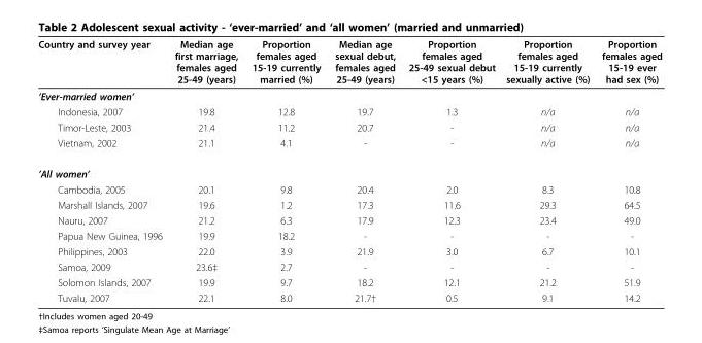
<table><thead><tr><td>Country and survey year</td><td>Median age first marriage, females aged 25-49 (years)</td><td>Proportion females aged 15-19 currently married (%)</td><td>Median age sexual debut, females aged 25-49 (years)</td><td>Proportion females aged 25-49 sexual debut &lt;15 years (%)</td><td>Proportion females aged 15-19 currently sexually active (%)</td><td>Proportion females aged 15-19 ever had sex (%)</td></tr></thead><tbody><tr><td colspan="7">’Ever-married women’</td></tr><tr><td>Indonesia, 2007</td><td>19.8</td><td>12.8</td><td>19.7</td><td>1.3</td><td>n/a</td><td>n/a</td></tr><tr><td>Timor-Leste, 2003</td><td>21.4</td><td>11.2</td><td>20.7</td><td>-</td><td>n/a</td><td>n/a</td></tr><tr><td>Vietnam, 2002</td><td>21.1</td><td>4.1</td><td>-</td><td>-</td><td>n/a</td><td>n/a</td></tr><tr><td colspan="7">’All women’</td></tr><tr><td>Cambodia, 2005</td><td>20.1</td><td>9.8</td><td>20.4</td><td>2.0</td><td>8.3</td><td>10.8</td></tr><tr><td>Marshall Islands, 2007</td><td>19.6</td><td>1.2</td><td>17.3</td><td>11.6</td><td>29.3</td><td>64.5</td></tr><tr><td>Nauru, 2007</td><td>21.2</td><td>6.3</td><td>17.9</td><td>12.3</td><td>23.4</td><td>49.0</td></tr><tr><td>Papua New Guinea, 1996</td><td>19.9</td><td>18.2</td><td>-</td><td>-</td><td>-</td><td>-</td></tr><tr><td>Philippines, 2003</td><td>22.0</td><td>3.9</td><td>21.9</td><td>3.0</td><td>6.7</td><td>10.1</td></tr><tr><td>Samoa, 2009</td><td>23.6‡</td><td>2.7</td><td>-</td><td>-</td><td>-</td><td>-</td></tr><tr><td>Solomon Islands, 2007</td><td>19.9</td><td>9.7</td><td>18.2</td><td>12.1</td><td>21.2</td><td>51.9</td></tr><tr><td>Tuvalu, 2007</td><td>22.1</td><td>8.0</td><td>21.7†</td><td>0.5</td><td>9.1</td><td>14.2</td></tr></tbody></table>